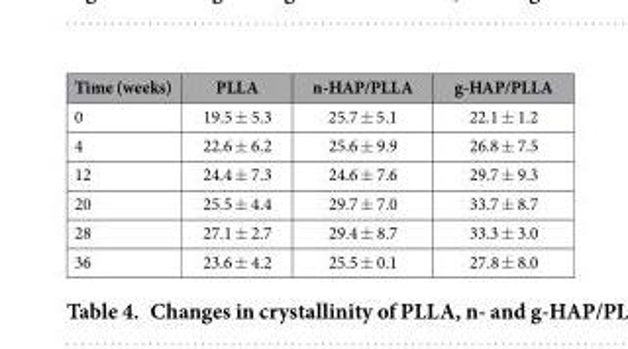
<table><thead><tr><td>Time (weeks)</td><td>PLLA</td><td>n-HAP/PLLA</td><td>g-HAP/PLLA</td></tr></thead><tbody><tr><td>0</td><td>19.5 ± 5.3</td><td>25.7 ± 5.1</td><td>22.1 ± 1.2</td></tr><tr><td>4</td><td>22.6 ± 6.2</td><td>25.6 ± 9.9</td><td>26.8 ± 7.5</td></tr><tr><td>12</td><td>24.4 ± 7.3</td><td>24.6 ± 7.6</td><td>29.7 ± 9.3</td></tr><tr><td>20</td><td>25.5 ± 4.4</td><td>29.7 ± 7.0</td><td>33.7 ± 8.7</td></tr><tr><td>28</td><td>27.1 ± 2.7</td><td>29.4 ± 8.7</td><td>33.3 ± 3.0</td></tr><tr><td>36</td><td>23.6 ± 4.2</td><td>25.5 ± 0.1</td><td>27.8 ± 8.0</td></tr></tbody></table>